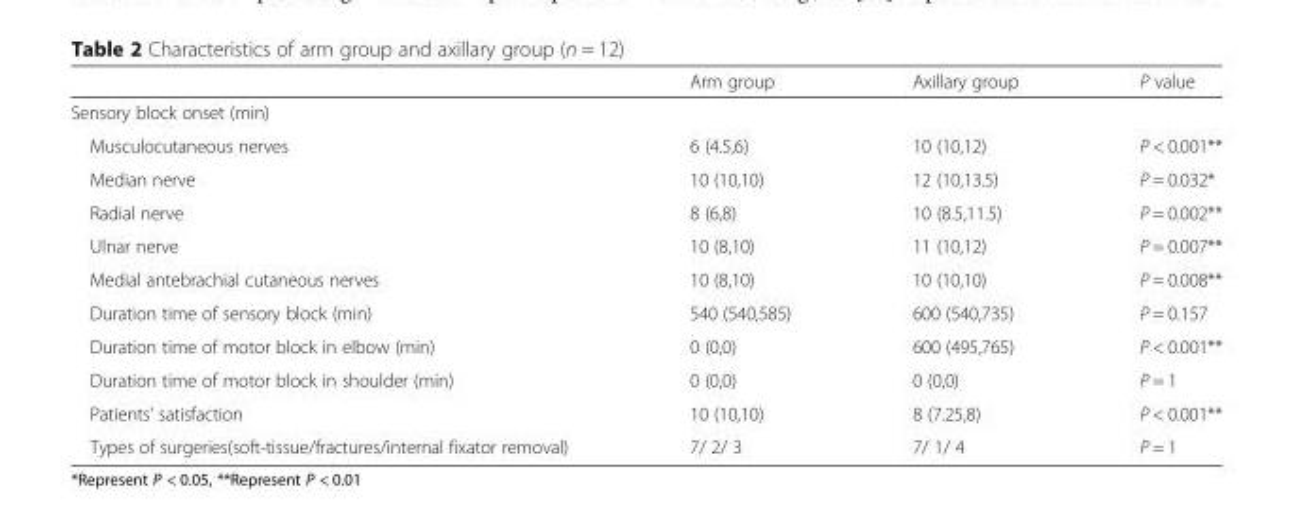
<table><thead><tr><td></td><td>Arm group</td><td>Axillary group</td><td>P value</td></tr></thead><tbody><tr><td colspan="4">Sensory block onset (min)</td></tr><tr><td>Musculocutaneous nerves</td><td>6 (4.5,6)</td><td>10 (10,12)</td><td>P &lt; 0.001**</td></tr><tr><td>Median nerve</td><td>10 (10,10)</td><td>12 (10,13.5)</td><td>P = 0.032*</td></tr><tr><td>Radial nerve</td><td>8 (6,8)</td><td>10 (8.5,11.5)</td><td>P = 0.002**</td></tr><tr><td>Ulnar nerve</td><td>10 (8,10)</td><td>11 (10,12)</td><td>P = 0.007**</td></tr><tr><td>Medial antebrachial cutaneous nerves</td><td>10 (8,10)</td><td>10 (10,10)</td><td>P = 0.008**</td></tr><tr><td>Duration time of sensory block (min)</td><td>540 (540,585)</td><td>600 (540,735)</td><td>P = 0.157</td></tr><tr><td>Duration time of motor block in elbow (min)</td><td>0 (0,0)</td><td>600 (495,765)</td><td>P &lt; 0.001**</td></tr><tr><td>Duration time of motor block in shoulder (min)</td><td>0 (0,0)</td><td>0 (0,0)</td><td>P = 1</td></tr><tr><td>Patients’ satisfaction</td><td>10 (10,10)</td><td>8 (7.25,8)</td><td>P &lt; 0.001**</td></tr><tr><td>Types of surgeries(soft-tissue/fractures/internal fixator removal)</td><td>7/ 2/ 3</td><td>7/ 1/ 4</td><td>P = 1</td></tr></tbody></table>